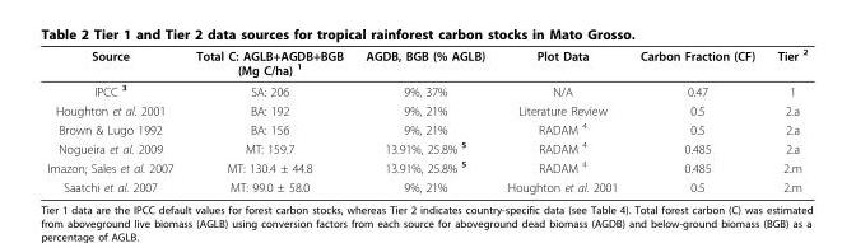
<table><thead><tr><td>Source</td><td>Total C: AGLB+AGDB+BGB (Mg C/ha) <sup>1</sup></td><td>AGDB, BGB (% AGLB)</td><td>Plot Data</td><td>Carbon Fraction (CF)</td><td>Tier <sup>2</sup></td></tr></thead><tbody><tr><td>IPCC <sup>3</sup></td><td>SA: 206</td><td>9%, 37%</td><td>N/A</td><td>0.47</td><td>1</td></tr><tr><td>Houghton et al. 2001</td><td>BA: 192</td><td>9%, 21%</td><td>Literature Review</td><td>0.5</td><td>2.a</td></tr><tr><td>Brown &amp; Lugo 1992</td><td>BA: 156</td><td>9%, 21%</td><td>RADAM <sup>4</sup></td><td>0.5</td><td>2.a</td></tr><tr><td>Nogueira et al. 2009</td><td>MT: 159.7</td><td>13.91%, 25.8% <sup>5</sup></td><td>RADAM <sup>4</sup></td><td>0.485</td><td>2.a</td></tr><tr><td>Imazon; Sales et al. 2007</td><td>MT: 130.4 ± 44.8</td><td>13.91%, 25.8% <sup>5</sup></td><td>RADAM <sup>4</sup></td><td>0.485</td><td>2.m</td></tr><tr><td>Saatchi et al. 2007</td><td>MT: 99.0 ± 58.0</td><td>9%, 21%</td><td>Houghton et al. 2001</td><td>0.5</td><td>2.m</td></tr></tbody></table>